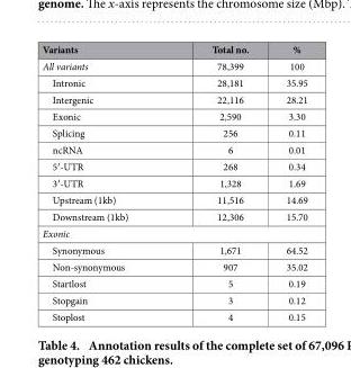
<table><thead><tr><td>Variants</td><td>Total no.</td><td>%</td></tr></thead><tbody><tr><td>All variants</td><td>78,399</td><td>100</td></tr><tr><td>Intronic</td><td>28,181</td><td>35.95</td></tr><tr><td>Intergenic</td><td>22,116</td><td>28.21</td></tr><tr><td>Exonic</td><td>2,590</td><td>3.30</td></tr><tr><td>Splicing</td><td>256</td><td>0.11</td></tr><tr><td>ncRNA</td><td>6</td><td>0.01</td></tr><tr><td>5′ -UTR</td><td>268</td><td>0.34</td></tr><tr><td>3′ -UTR</td><td>1,328</td><td>1.69</td></tr><tr><td>Upstream (1kb)</td><td>11,516</td><td>14.69</td></tr><tr><td>Downstream (1kb)</td><td>12,306</td><td>15.70</td></tr><tr><td colspan="3">Exonic</td></tr><tr><td>Synonymous</td><td>1,671</td><td>64.52</td></tr><tr><td>Non-synonymous</td><td>907</td><td>35.02</td></tr><tr><td>Startlost</td><td>5</td><td>0.19</td></tr><tr><td>Stopgain</td><td>3</td><td>0.12</td></tr><tr><td>Stoplost</td><td>4</td><td>0.15</td></tr></tbody></table>